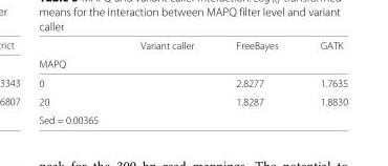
<table><thead><tr><td rowspan="2">MAPQ</td><td rowspan="2">Variant caller</td><td rowspan="2">FreeBayes</td><td rowspan="2">GATK</td></tr><tr></tr></thead><tbody><tr><td>0</td><td></td><td>2.8277</td><td>1.7635</td></tr><tr><td>20</td><td></td><td>1.8287</td><td>1.8830</td></tr><tr><td>Sed = 0.00365</td><td></td><td></td><td></td></tr></tbody></table>